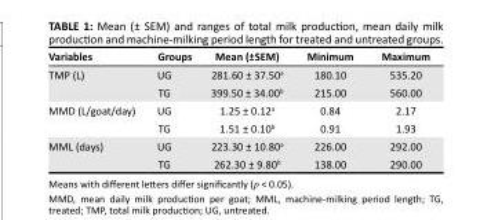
<table><thead><tr><td>Variables</td><td>Groups</td><td>Mean (±SEM)</td><td>Minimum</td><td>Maximum</td></tr></thead><tbody><tr><td rowspan="2">TMP (L)</td><td>UG</td><td>281.60 ± 37.50<sup>a</sup></td><td>180.10</td><td>535.20</td></tr><tr><td>TG</td><td>399.50 ± 34.00<sup>b</sup></td><td>215.00</td><td>560.00</td></tr><tr><td rowspan="2">MMD (L/goat/day)</td><td>UG</td><td>1.25 ± 0.12<sup>a</sup></td><td>0.84</td><td>2.17</td></tr><tr><td>TG</td><td>1.51 ± 0.10<sup>b</sup></td><td>0.91</td><td>1.93</td></tr><tr><td rowspan="2">MML (days)</td><td>UG</td><td>223.30 ± 10.80<sup>a</sup></td><td>226.00</td><td>292.00</td></tr><tr><td>TG</td><td>262.30 ± 9.80<sup>b</sup></td><td>138.00</td><td>290.00</td></tr></tbody></table>